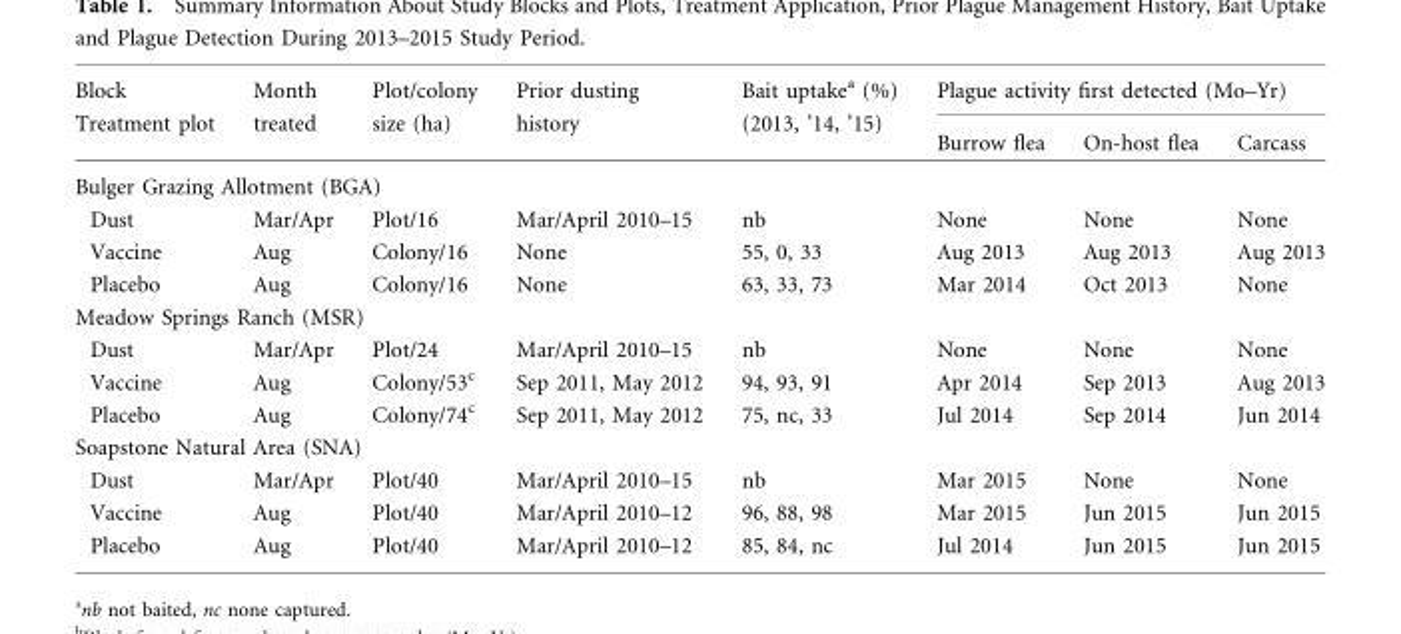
<table><thead><tr><td rowspan="2">Block Treatment plot</td><td rowspan="2">Month treated</td><td rowspan="2">Plot/colony size (ha)</td><td rowspan="2">Prior dusting history</td><td rowspan="2">Bait uptake<sup>a</sup> (%) (2013, ’14, ’15)</td><td colspan="3">Plague activity first detected (Mo–Yr)</td></tr><tr><td>Burrow flea</td><td>On-host flea</td><td>Carcass</td></tr></thead><tbody><tr><td colspan="8">Bulger Grazing Allotment (BGA)</td></tr><tr><td>Dust</td><td>Mar/Apr</td><td>Plot/16</td><td>Mar/April 2010–15</td><td>nb</td><td>None</td><td>None</td><td>None</td></tr><tr><td>Vaccine</td><td>Aug</td><td>Colony/16</td><td>None</td><td>55, 0, 33</td><td>Aug 2013</td><td>Aug 2013</td><td>Aug 2013</td></tr><tr><td>Placebo</td><td>Aug</td><td>Colony/16</td><td>None</td><td>63, 33, 73</td><td>Mar 2014</td><td>Oct 2013</td><td>None</td></tr><tr><td colspan="8">Meadow Springs Ranch (MSR)</td></tr><tr><td>Dust</td><td>Mar/Apr</td><td>Plot/24</td><td>Mar/April 2010–15</td><td>nb</td><td>None</td><td>None</td><td>None</td></tr><tr><td>Vaccine</td><td>Aug</td><td>Colony/53<sup>c</sup></td><td>Sep 2011, May 2012</td><td>94, 93, 91</td><td>Apr 2014</td><td>Sep 2013</td><td>Aug 2013</td></tr><tr><td>Placebo</td><td>Aug</td><td>Colony/74<sup>c</sup></td><td>Sep 2011, May 2012</td><td>75, nc, 33</td><td>Jul 2014</td><td>Sep 2014</td><td>Jun 2014</td></tr><tr><td colspan="8">Soapstone Natural Area (SNA)</td></tr><tr><td>Dust</td><td>Mar/Apr</td><td>Plot/40</td><td>Mar/April 2010–15</td><td>nb</td><td>Mar 2015</td><td>None</td><td>None</td></tr><tr><td>Vaccine</td><td>Aug</td><td>Plot/40</td><td>Mar/April 2010–12</td><td>96, 88, 98</td><td>Mar 2015</td><td>Jun 2015</td><td>Jun 2015</td></tr><tr><td>Placebo</td><td>Aug</td><td>Plot/40</td><td>Mar/April 2010–12</td><td>85, 84, nc</td><td>Jul 2014</td><td>Jun 2015</td><td>Jun 2015</td></tr></tbody></table>